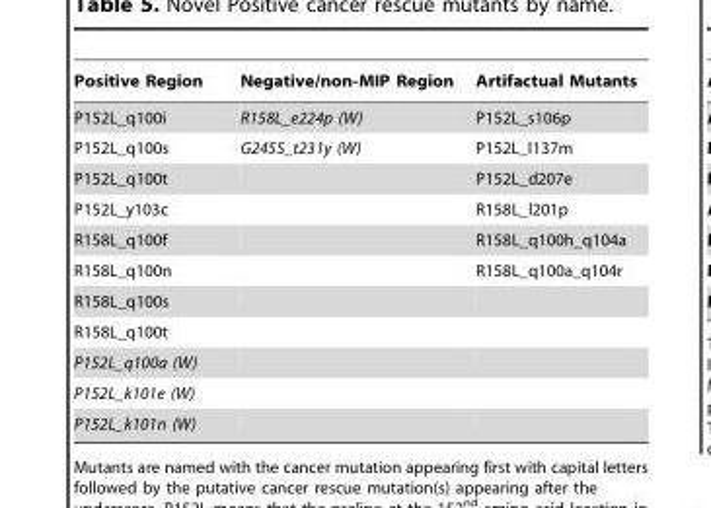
<table><thead><tr><td>Positive Region</td><td>Negative/non-MIP Region</td><td>Artifactual Mutants</td></tr></thead><tbody><tr><td>P152L_q100i</td><td>R158L_e224p (W)</td><td>P152L_s106p</td></tr><tr><td>P152L_q100s</td><td>G245S_t231y (W)</td><td>P152L_l137m</td></tr><tr><td>P152L_q100t</td><td></td><td>P152L_d207e</td></tr><tr><td>P152L_y103c</td><td></td><td>R158L_l201p</td></tr><tr><td>R158L_q100f</td><td></td><td>R158L_q100h_q104a</td></tr><tr><td>R158L_q100n</td><td></td><td>R158L_q100a_q104r</td></tr><tr><td colspan="3">R158L_q100s</td></tr><tr><td colspan="3">R158L_q100t</td></tr><tr><td colspan="3">P152L_q100a (W)</td></tr><tr><td colspan="3">P152L_k101e (W)</td></tr><tr><td>P152L_k101n (W)</td><td></td><td></td></tr></tbody></table>